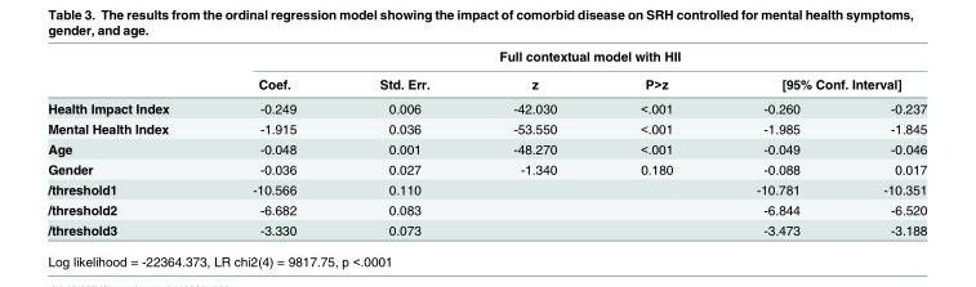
<table><thead><tr><td rowspan="3">Health Impact Index</td><td colspan="6">Full contextual model with HII</td></tr><tr><td rowspan="2">Coef. -0.249</td><td rowspan="2">Std. Err. 0.006</td><td rowspan="2">z -42.030</td><td rowspan="2">P&gt;z &lt;.001</td><td colspan="2">[95% Conf. Interval]</td></tr><tr><td>-0.260</td><td>-0.237</td></tr></thead><tbody><tr><td>Mental Health Index</td><td>-1.915</td><td>0.036</td><td>-53.550</td><td>&lt;.001</td><td>-1.985</td><td>-1.845</td></tr><tr><td>Age</td><td>-0.048</td><td>0.001</td><td>-48.270</td><td>&lt;.001</td><td>-0.049</td><td>-0.046</td></tr><tr><td>Gender</td><td>-0.036</td><td>0.027</td><td>-1.340</td><td>0.180</td><td>-0.088</td><td>0.017</td></tr><tr><td>/threshold1</td><td>-10.566</td><td>0.110</td><td></td><td></td><td>-10.781</td><td>-10.351</td></tr><tr><td>/threshold2</td><td>-6.682</td><td>0.083</td><td></td><td></td><td>-6.844</td><td>-6.520</td></tr><tr><td>/threshold3</td><td>-3.330</td><td>0.073</td><td></td><td></td><td>-3.473</td><td>-3.188</td></tr></tbody></table>